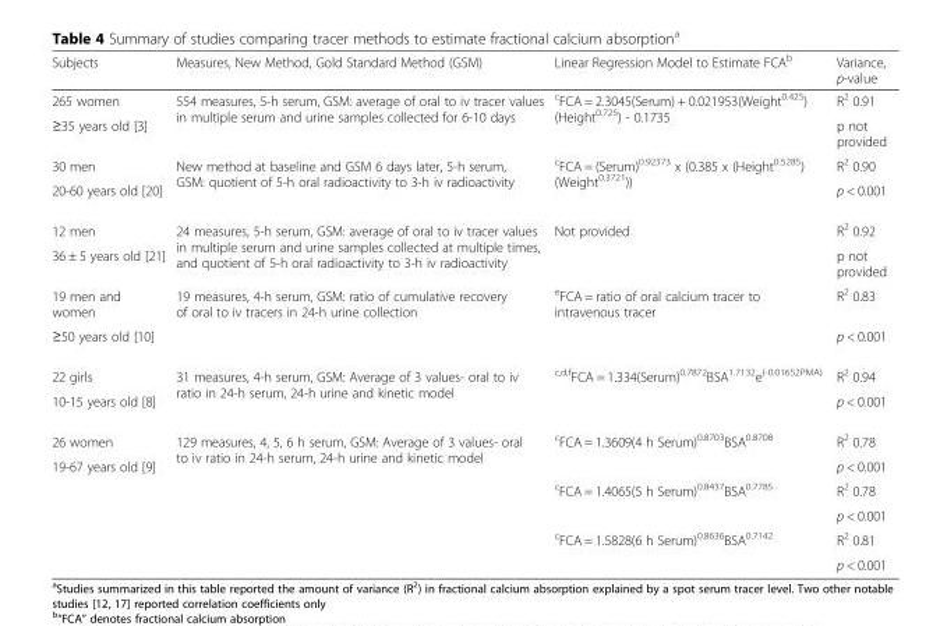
<table><thead><tr><td>Subjects</td><td>Measures, New Method, Gold Standard Method (GSM)</td><td>Linear Regression Model to Estimate FCA<sup>b</sup></td><td>Variance, p-value</td></tr></thead><tbody><tr><td>265 women</td><td rowspan="2">554 measures, 5-h serum, GSM: average of oral to iv tracer values in multiple serum and urine samples collected for 6-10 days</td><td rowspan="2"><sup>c</sup>FCA = 2.3045(Serum) + 0.021953(Weight<sup>0.425</sup>) (Height<sup>0.725</sup>) - 0.1735</td><td>R<sup>2</sup> 0.91</td></tr><tr><td>≥35 years old [3]</td><td>p not provided</td></tr><tr><td>30 men</td><td rowspan="2">New method at baseline and GSM 6 days later, 5-h serum, GSM: quotient of 5-h oral radioactivity to 3-h iv radioactivity</td><td rowspan="2"><sup>c</sup>FCA = (Serum)<sup>0.92373</sup> x (0.385 x (Height<sup>0.5285</sup>) (Weight<sup>0.3721</sup>))</td><td>R<sup>2</sup> 0.90</td></tr><tr><td>20-60 years old [20]</td><td>p &lt; 0.001</td></tr><tr><td>12 men</td><td rowspan="2">24 measures, 5-h serum, GSM: average of oral to iv tracer values in multiple serum and urine samples collected at multiple times, and quotient of 5-h oral radioactivity to 3-h iv radioactivity</td><td rowspan="2">Not provided</td><td>R<sup>2</sup> 0.92</td></tr><tr><td>36 ± 5 years old [21]</td><td>p not provided</td></tr><tr><td>19 men and women</td><td rowspan="2">19 measures, 4-h serum, GSM: ratio of cumulative recovery of oral to iv tracers in 24-h urine collection</td><td rowspan="2"><sup>e</sup>FCA = ratio of oral calcium tracer to intravenous tracer</td><td>R<sup>2</sup> 0.83</td></tr><tr><td>≥50 years old [10]</td><td>p &lt; 0.001</td></tr><tr><td>22 girls</td><td rowspan="2">31 measures, 4-h serum, GSM: Average of 3 values- oral to iv ratio in 24-h serum, 24-h urine and kinetic model</td><td rowspan="2"><sup>c,d,f</sup>FCA = 1.334(Serum)<sup>0.7872</sup>BSA<sup>1.7132</sup>e<sup>(-0.01652PMA)</sup></td><td>R<sup>2</sup> 0.94</td></tr><tr><td>10-15 years old [8]</td><td>p &lt; 0.001</td></tr><tr><td>26 women</td><td rowspan="6">129 measures, 4, 5, 6 h serum, GSM: Average of 3 values- oral to iv ratio in 24-h serum, 24-h urine and kinetic model</td><td rowspan="2"><sup>c</sup>FCA = 1.3609(4 h Serum)<sup>0.8703</sup>BSA<sup>0.8708</sup></td><td>R<sup>2</sup> 0.78</td></tr><tr><td rowspan="5">19-67 years old [9]</td><td>p &lt; 0.001</td></tr><tr><td rowspan="2"><sup>c</sup>FCA = 1.4065(5 h Serum)<sup>0.8437</sup>BSA<sup>0.7785</sup></td><td>R<sup>2</sup> 0.78</td></tr><tr><td>p &lt; 0.001</td></tr><tr><td rowspan="2"><sup>c</sup>FCA = 1.5828(6 h Serum)<sup>0.8636</sup>BSA<sup>0.7142</sup></td><td>R<sup>2</sup> 0.81</td></tr><tr><td>p &lt; 0.001</td></tr></tbody></table>